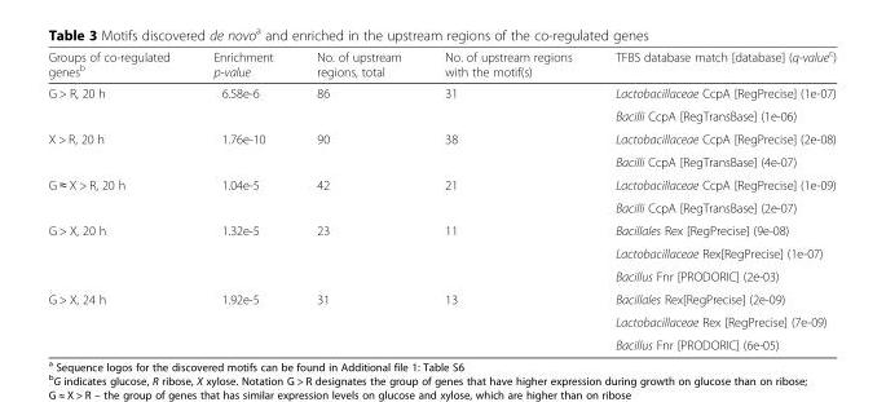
<table><thead><tr><td>Groups of co-regulated genes<sup>b</sup></td><td>Enrichment p-value</td><td>No. of upstream regions, total</td><td>No. of upstream regions with the motif(s)</td><td>TFBS database match [database] (q-value<sup>c</sup>)</td></tr></thead><tbody><tr><td rowspan="2">G &gt; R, 20 h</td><td rowspan="2">6.58e-6</td><td rowspan="2">86</td><td rowspan="2">31</td><td>Lactobacillaceae CcpA [RegPrecise] (1e-07)</td></tr><tr><td>Bacilli CcpA [RegTransBase] (1e-06)</td></tr><tr><td rowspan="2">X &gt; R, 20 h</td><td rowspan="2">1.76e-10</td><td rowspan="2">90</td><td rowspan="2">38</td><td>Lactobacillaceae CcpA [RegPrecise] (2e-08)</td></tr><tr><td>Bacilli CcpA [RegTransBase] (4e-07)</td></tr><tr><td rowspan="2">G ≈ X &gt; R, 20 h</td><td rowspan="2">1.04e-5</td><td rowspan="2">42</td><td rowspan="2">21</td><td>Lactobacillaceae CcpA [RegPrecise] (1e-09)</td></tr><tr><td>Bacilli CcpA [RegTransBase] (2e-07)</td></tr><tr><td rowspan="3">G &gt; X, 20 h</td><td rowspan="3">1.32e-5</td><td rowspan="3">23</td><td rowspan="3">11</td><td>Bacillales Rex [RegPrecise] (9e-08)</td></tr><tr><td>Lactobacillaceae Rex[RegPrecise] (1e-07)</td></tr><tr><td>Bacillus Fnr [PRODORIC] (2e-03)</td></tr><tr><td rowspan="3">G &gt; X, 24 h</td><td rowspan="3">1.92e-5</td><td rowspan="3">31</td><td rowspan="3">13</td><td>Bacillales Rex[RegPrecise] (2e-09)</td></tr><tr><td>Lactobacillaceae Rex [RegPrecise] (7e-09)</td></tr><tr><td>Bacillus Fnr [PRODORIC] (6e-05)</td></tr></tbody></table>